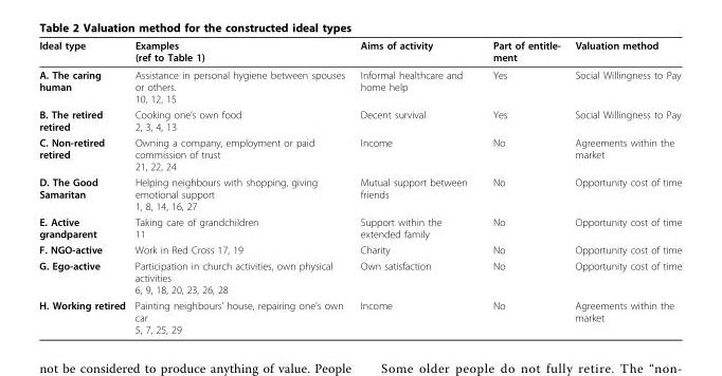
<table><thead><tr><td>Ideal type</td><td>Examples (ref to Table 1)</td><td>Aims of activity</td><td>Part of entitle- ment</td><td>Valuation method</td></tr></thead><tbody><tr><td>A. The caring human</td><td>Assistance in personal hygiene between spouses or others. 10, 12, 15</td><td>Informal healthcare and home help</td><td>Yes</td><td>Social Willingness to Pay</td></tr><tr><td>B. The retired retired</td><td>Cooking one’s own food 2, 3, 4, 13</td><td>Decent survival</td><td>Yes</td><td>Social Willingness to Pay</td></tr><tr><td>C. Non-retired retired</td><td>Owning a company, employment or paid commission of trust 21, 22, 24</td><td>Income</td><td>No</td><td>Agreements within the market</td></tr><tr><td>D. The Good Samaritan</td><td>Helping neighbours with shopping, giving emotional support 1, 8, 14, 16, 27</td><td>Mutual support between friends</td><td>No</td><td>Opportunity cost of time</td></tr><tr><td>E. Active grandparent</td><td>Taking care of grandchildren 11</td><td>Support within the extended family</td><td>No</td><td>Opportunity cost of time</td></tr><tr><td>F. NGO-active</td><td>Work in Red Cross 17, 19</td><td>Charity</td><td>No</td><td>Opportunity cost of time</td></tr><tr><td>G. Ego-active</td><td>Participation in church activities, own physical activities 6, 9, 18, 20, 23, 26, 28</td><td>Own satisfaction</td><td>No</td><td>Opportunity cost of time</td></tr><tr><td>H. Working retired</td><td>Painting neighbours’ house, repairing one’s own car 5, 7, 25, 29</td><td>Income</td><td>No</td><td>Agreements within the market</td></tr></tbody></table>